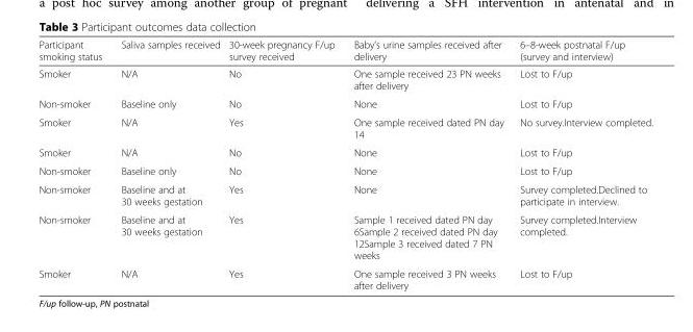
<table><thead><tr><td>Participant smoking status</td><td>Saliva samples received</td><td>30-week pregnancy F/up survey received</td><td>Baby’s urine samples received after delivery</td><td>6–8-week postnatal F/up (survey and interview)</td></tr></thead><tbody><tr><td>Smoker</td><td>N/A</td><td>No</td><td>One sample received 23 PN weeks after delivery</td><td>Lost to F/up</td></tr><tr><td>Non-smoker</td><td>Baseline only</td><td>No</td><td>None</td><td>Lost to F/up</td></tr><tr><td>Smoker</td><td>N/A</td><td>Yes</td><td>One sample received dated PN day 14</td><td>No survey.Interview completed.</td></tr><tr><td>Smoker</td><td>N/A</td><td>No</td><td>None</td><td>Lost to F/up</td></tr><tr><td>Non-smoker</td><td>Baseline only</td><td>No</td><td>None</td><td>Lost to F/up</td></tr><tr><td>Non-smoker</td><td>Baseline and at 30 weeks gestation</td><td>Yes</td><td>None</td><td>Survey completed.Declined to participate in interview.</td></tr><tr><td>Non-smoker</td><td>Baseline and at 30 weeks gestation</td><td>Yes</td><td>Sample 1 received dated PN day 6Sample 2 received dated PN day 12Sample 3 received dated 7 PN weeks</td><td>Survey completed.Interview completed.</td></tr><tr><td>Smoker</td><td>N/A</td><td>Yes</td><td>One sample received 3 PN weeks after delivery</td><td>Lost to F/up</td></tr></tbody></table>